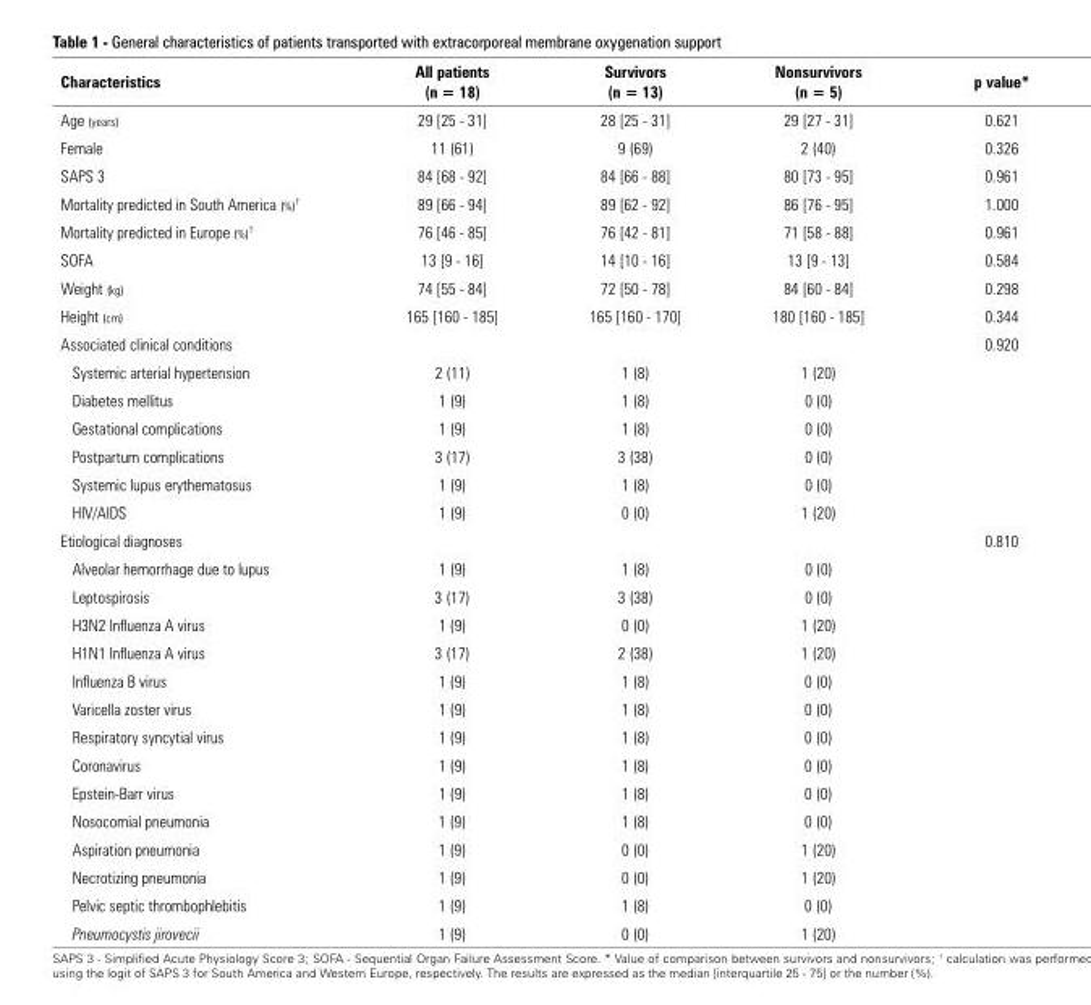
<table><thead><tr><td>Characteristics</td><td>All patients (n = 18)</td><td>Survivors (n = 13)</td><td>Nonsurvivors (n = 5)</td><td>p value*</td></tr></thead><tbody><tr><td>Age (years)</td><td>29 [25 - 31]</td><td>28 [25 - 31]</td><td>29 [27 - 31]</td><td>0.621</td></tr><tr><td>Female</td><td>11 (61)</td><td>9 (69)</td><td>2 (40)</td><td>0.326</td></tr><tr><td>SAPS 3</td><td>84 [68 - 92]</td><td>84 [66 - 88]</td><td>80 [73 - 95]</td><td>0.961</td></tr><tr><td>Mortality predicted in South America (%)†</td><td>89 [66 - 94]</td><td>89 [62 - 92]</td><td>86 [76 - 95]</td><td>1.000</td></tr><tr><td>Mortality predicted in Europe (%)†</td><td>76 [46 - 85]</td><td>76 [42 - 81]</td><td>71 [58 - 88]</td><td>0.961</td></tr><tr><td>SOFA</td><td>13 [9 - 16]</td><td>14 [10 - 16]</td><td>13 [9 - 13]</td><td>0.584</td></tr><tr><td>Weight (kg)</td><td>74 [55 - 84]</td><td>72 [50 - 78]</td><td>84 [60 - 84]</td><td>0.298</td></tr><tr><td>Height (cm)</td><td>165 [160 - 185]</td><td>165 [160 - 170]</td><td>180 [160 - 185]</td><td>0.344</td></tr><tr><td>Associated clinical conditions</td><td></td><td></td><td></td><td>0.920</td></tr><tr><td>Systemic arterial hypertension</td><td>2 (11)</td><td>1 (8)</td><td>1 (20)</td><td></td></tr><tr><td>Diabetes mellitus</td><td>1 (9)</td><td>1 (8)</td><td>0 (0)</td><td></td></tr><tr><td>Gestational complications</td><td>1 (9)</td><td>1 (8)</td><td>0 (0)</td><td></td></tr><tr><td>Postpartum complications</td><td>3 (17)</td><td>3 (38)</td><td>0 (0)</td><td></td></tr><tr><td>Systemic lupus erythematosus</td><td>1 (9)</td><td>1 (8)</td><td>0 (0)</td><td></td></tr><tr><td>HIV/AIDS</td><td>1 (9)</td><td>0 (0)</td><td>1 (20)</td><td></td></tr><tr><td>Etiological diagnoses</td><td></td><td></td><td></td><td>0.810</td></tr><tr><td>Alveolar hemorrhage due to lupus</td><td>1 (9)</td><td>1 (8)</td><td>0 (0)</td><td></td></tr><tr><td>Leptospirosis</td><td>3 (17)</td><td>3 (38)</td><td>0 (0)</td><td></td></tr><tr><td>H3N2 Influenza A virus</td><td>1 (9)</td><td>0 (0)</td><td>1 (20)</td><td></td></tr><tr><td>H1N1 Influenza A virus</td><td>3 (17)</td><td>2 (38)</td><td>1 (20)</td><td></td></tr><tr><td>Influenza B virus</td><td>1 (9)</td><td>1 (8)</td><td>0 (0)</td><td></td></tr><tr><td>Varicella zoster virus</td><td>1 (9)</td><td>1 (8)</td><td>0 (0)</td><td></td></tr><tr><td>Respiratory syncytial virus</td><td>1 (9)</td><td>1 (8)</td><td>0 (0)</td><td></td></tr><tr><td>Coronavirus</td><td>1 (9)</td><td>1 (8)</td><td>0 (0)</td><td></td></tr><tr><td>Epstein-Barr virus</td><td>1 (9)</td><td>1 (8)</td><td>0 (0)</td><td></td></tr><tr><td>Nosocomial pneumonia</td><td>1 (9)</td><td>1 (8)</td><td>0 (0)</td><td></td></tr><tr><td>Aspiration pneumonia</td><td>1 (9)</td><td>0 (0)</td><td>1 (20)</td><td></td></tr><tr><td>Necrotizing pneumonia</td><td>1 (9)</td><td>0 (0)</td><td>1 (20)</td><td></td></tr><tr><td>Pelvic septic thrombophlebitis</td><td>1 (9)</td><td>1 (8)</td><td>0 (0)</td><td></td></tr><tr><td>Pneumocystis jirovecii</td><td>1 (9)</td><td>0 (0)</td><td>1 (20)</td><td></td></tr></tbody></table>